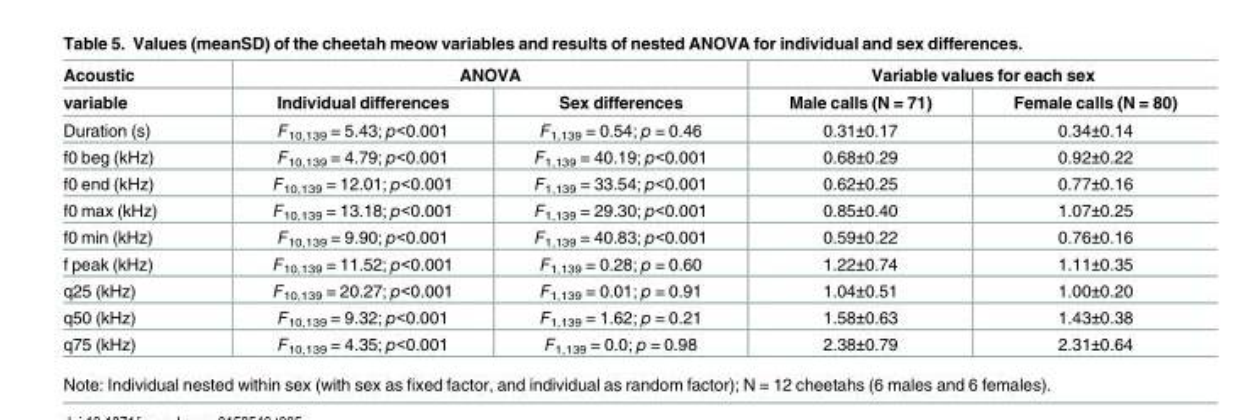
<table><thead><tr><td rowspan="2">Acoustic variable</td><td colspan="2">ANOVA</td><td colspan="2">Variable values for each sex</td></tr><tr><td>Individual differences</td><td>Sex differences</td><td>Male calls (N = 71)</td><td>Female calls (N = 80)</td></tr></thead><tbody><tr><td>Duration (s)</td><td>F10,139 = 5.43; p&lt;0.001</td><td>F1,139 = 0.54; p = 0.46</td><td>0.31±0.17</td><td>0.34±0.14</td></tr><tr><td>f0 beg (kHz)</td><td>F10,139 = 4.79; p&lt;0.001</td><td>F1,139 = 40.19; p&lt;0.001</td><td>0.68±0.29</td><td>0.92±0.22</td></tr><tr><td>f0 end (kHz)</td><td>F10,139 = 12.01; p&lt;0.001</td><td>F1,139 = 33.54; p&lt;0.001</td><td>0.62±0.25</td><td>0.77±0.16</td></tr><tr><td>f0 max (kHz)</td><td>F10,139 = 13.18; p&lt;0.001</td><td>F1,139 = 29.30; p&lt;0.001</td><td>0.85±0.40</td><td>1.07±0.25</td></tr><tr><td>f0 min (kHz)</td><td>F10,139 = 9.90; p&lt;0.001</td><td>F1,139 = 40.83; p&lt;0.001</td><td>0.59±0.22</td><td>0.76±0.16</td></tr><tr><td>f peak (kHz)</td><td>F10,139 = 11.52; p&lt;0.001</td><td>F1,139 = 0.28; p = 0.60</td><td>1.22±0.74</td><td>1.11±0.35</td></tr><tr><td>q25 (kHz)</td><td>F10,139 = 20.27; p&lt;0.001</td><td>F1,139 = 0.01; p = 0.91</td><td>1.04±0.51</td><td>1.00±0.20</td></tr><tr><td>q50 (kHz)</td><td>F10,139 = 9.32; p&lt;0.001</td><td>F1,139 = 1.62; p = 0.21</td><td>1.58±0.63</td><td>1.43±0.38</td></tr><tr><td>q75 (kHz)</td><td>F10,139 = 4.35; p&lt;0.001</td><td>F1,139 = 0.0; p = 0.98</td><td>2.38±0.79</td><td>2.31±0.64</td></tr></tbody></table>